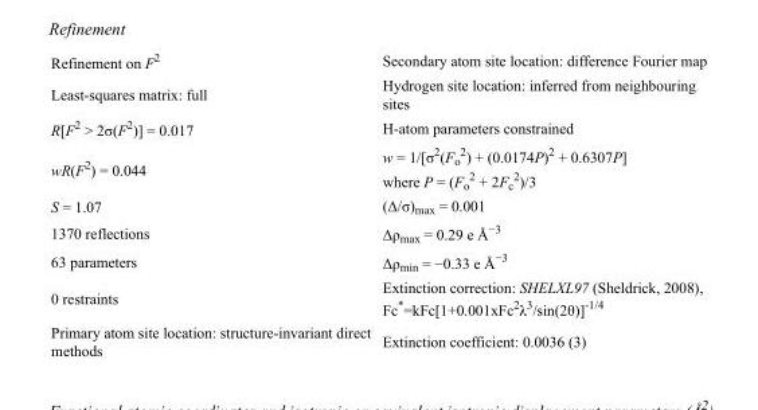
<table><tbody><tr><td>Refinement on F<sup>2</sup></td><td>Secondary atom site location: difference Fourier map</td></tr><tr><td>Least-squares matrix: full</td><td>Hydrogen site location: inferred from neighbouring sites</td></tr><tr><td>R[F<sup>2</sup> &gt; 2σ(F<sup>2</sup>)] = 0.017</td><td>H-atom parameters constrained</td></tr><tr><td>wR(F<sup>2</sup>) = 0.044</td><td>w = 1/[σ<sup>2</sup>(F<sub>o</sub> <sup>2</sup>) + (0.0174P)<sup>2</sup> + 0.6307P] where P = (F<sub>o</sub> <sup>2</sup> + 2F<sub>c</sub> <sup>2</sup>)/3</td></tr><tr><td>S = 1.07</td><td>(Δ/σ)<sub>max</sub> = 0.001</td></tr><tr><td>1370 reflections</td><td>Δρ<sub>max</sub> = 0.29 e Å<sup>−3</sup></td></tr><tr><td>63 parameters</td><td>Δρ<sub>min</sub> = −0.33 e Å<sup>−3</sup></td></tr><tr><td>0 restraints</td><td>Extinction correction: SHELXL97 (Sheldrick, 2008), Fc*=kFc[1+0.001xFc<sup>2</sup>λ<sup>3</sup>/sin(2θ)]<sup>-1/4</sup></td></tr><tr><td>Primary atom site location: structure-invariant direct methods</td><td>Extinction coefficient: 0.0036 (3)</td></tr></tbody></table>